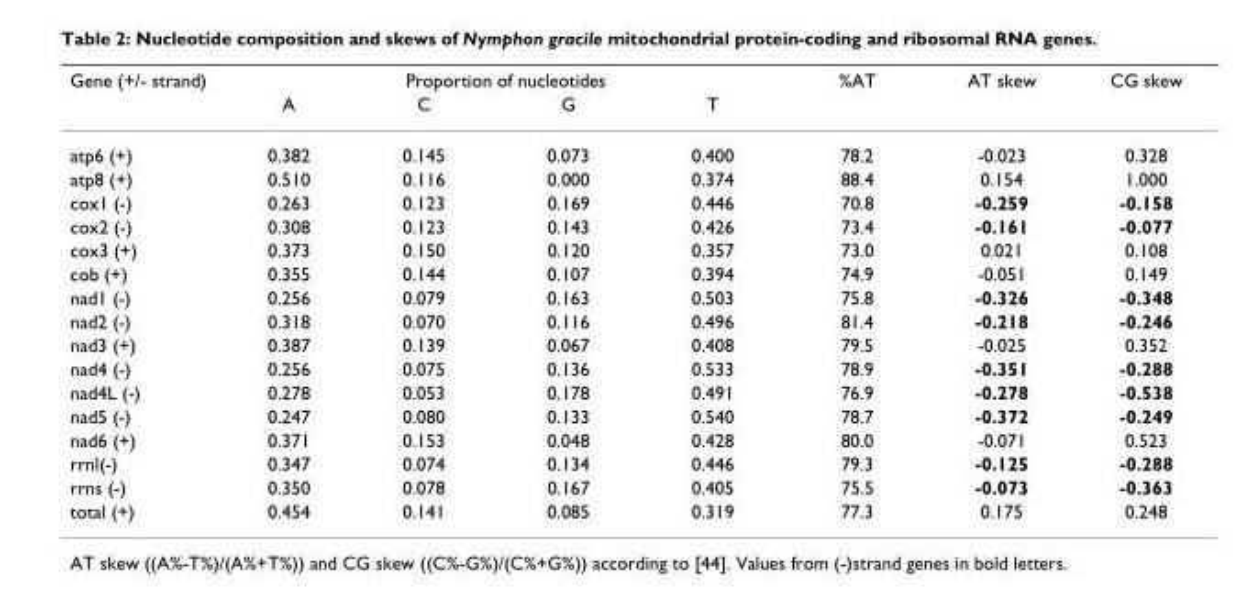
<table><thead><tr><td rowspan="2">Gene (+/- strand)</td><td colspan="4">Proportion of nucleotides</td><td rowspan="2">%AT</td><td rowspan="2">AT skew</td><td rowspan="2">CG skew</td></tr><tr><td>A</td><td>C</td><td>G</td><td>T</td></tr></thead><tbody><tr><td>atp6 (+)</td><td>0.382</td><td>0.145</td><td>0.073</td><td>0.400</td><td>78.2</td><td>-0.023</td><td>0.328</td></tr><tr><td>atp8 (+)</td><td>0.510</td><td>0.116</td><td>0.000</td><td>0.374</td><td>88.4</td><td>0.154</td><td>1.000</td></tr><tr><td>cox1 (-)</td><td>0.263</td><td>0.123</td><td>0.169</td><td>0.446</td><td>70.8</td><td>-0.259</td><td>-0.158</td></tr><tr><td>cox2 (-)</td><td>0.308</td><td>0.123</td><td>0.143</td><td>0.426</td><td>73.4</td><td>-0.161</td><td>-0.077</td></tr><tr><td>cox3 (+)</td><td>0.373</td><td>0.150</td><td>0.120</td><td>0.357</td><td>73.0</td><td>0.021</td><td>0.108</td></tr><tr><td>cob (+)</td><td>0.355</td><td>0.144</td><td>0.107</td><td>0.394</td><td>74.9</td><td>-0.051</td><td>0.149</td></tr><tr><td>nad1 (-)</td><td>0.256</td><td>0.079</td><td>0.163</td><td>0.503</td><td>75.8</td><td>-0.326</td><td>-0.348</td></tr><tr><td>nad2 (-)</td><td>0.318</td><td>0.070</td><td>0.116</td><td>0.496</td><td>81.4</td><td>-0.218</td><td>-0.246</td></tr><tr><td>nad3 (+)</td><td>0.387</td><td>0.139</td><td>0.067</td><td>0.408</td><td>79.5</td><td>-0.025</td><td>0.352</td></tr><tr><td>nad4 (-)</td><td>0.256</td><td>0.075</td><td>0.136</td><td>0.533</td><td>78.9</td><td>-0.351</td><td>-0.288</td></tr><tr><td>nad4L (-)</td><td>0.278</td><td>0.053</td><td>0.178</td><td>0.491</td><td>76.9</td><td>-0.278</td><td>-0.538</td></tr><tr><td>nad5 (-)</td><td>0.247</td><td>0.080</td><td>0.133</td><td>0.540</td><td>78.7</td><td>-0.372</td><td>-0.249</td></tr><tr><td>nad6 (+)</td><td>0.371</td><td>0.153</td><td>0.048</td><td>0.428</td><td>80.0</td><td>-0.071</td><td>0.523</td></tr><tr><td>rrnl(-)</td><td>0.347</td><td>0.074</td><td>0.134</td><td>0.446</td><td>79.3</td><td>-0.125</td><td>-0.288</td></tr><tr><td>rrns (-)</td><td>0.350</td><td>0.078</td><td>0.167</td><td>0.405</td><td>75.5</td><td>-0.073</td><td>-0.363</td></tr><tr><td>total (+)</td><td>0.454</td><td>0.141</td><td>0.085</td><td>0.319</td><td>77.3</td><td>0.175</td><td>0.248</td></tr></tbody></table>